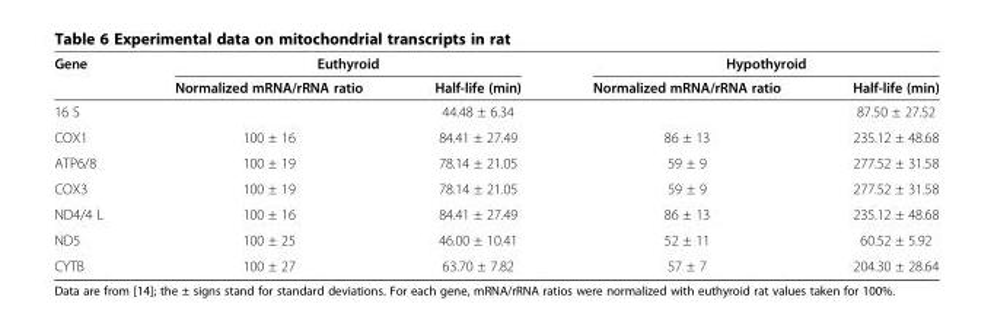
<table><thead><tr><td rowspan="2">Gene</td><td colspan="2">Euthyroid</td><td colspan="2">Hypothyroid</td></tr><tr><td>Normalized mRNA/rRNA ratio</td><td>Half-life (min)</td><td>Normalized mRNA/rRNA ratio</td><td>Half-life (min)</td></tr></thead><tbody><tr><td>16 S</td><td></td><td>44.48 ± 6.34</td><td></td><td>87.50 ± 27.52</td></tr><tr><td>COX1</td><td>100 ± 16</td><td>84.41 ± 27.49</td><td>86 ± 13</td><td>235.12 ± 48.68</td></tr><tr><td>ATP6/8</td><td>100 ± 19</td><td>78.14 ± 21.05</td><td>59 ± 9</td><td>277.52 ± 31.58</td></tr><tr><td>COX3</td><td>100 ± 19</td><td>78.14 ± 21.05</td><td>59 ± 9</td><td>277.52 ± 31.58</td></tr><tr><td>ND4/4 L</td><td>100 ± 16</td><td>84.41 ± 27.49</td><td>86 ± 13</td><td>235.12 ± 48.68</td></tr><tr><td>ND5</td><td>100 ± 25</td><td>46.00 ± 10.41</td><td>52 ± 11</td><td>60.52 ± 5.92</td></tr><tr><td>CYTB</td><td>100 ± 27</td><td>63.70 ± 7.82</td><td>57 ± 7</td><td>204.30 ± 28.64</td></tr></tbody></table>